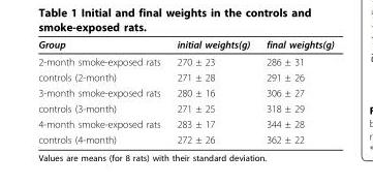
<table><thead><tr><td>Group</td><td>initial weights(g)</td><td>final weights(g)</td></tr></thead><tbody><tr><td>2-month smoke-exposed rats</td><td>270 ± 23</td><td>286 ± 31</td></tr><tr><td>controls (2-month)</td><td>271 ± 28</td><td>291 ± 26</td></tr><tr><td>3-month smoke-exposed rats</td><td>280 ± 16</td><td>306 ± 27</td></tr><tr><td>controls (3-month)</td><td>271 ± 25</td><td>318 ± 29</td></tr><tr><td>4-month smoke-exposed rats</td><td>283 ± 17</td><td>344 ± 28</td></tr><tr><td>controls (4-month)</td><td>272 ± 26</td><td>362 ± 22</td></tr></tbody></table>